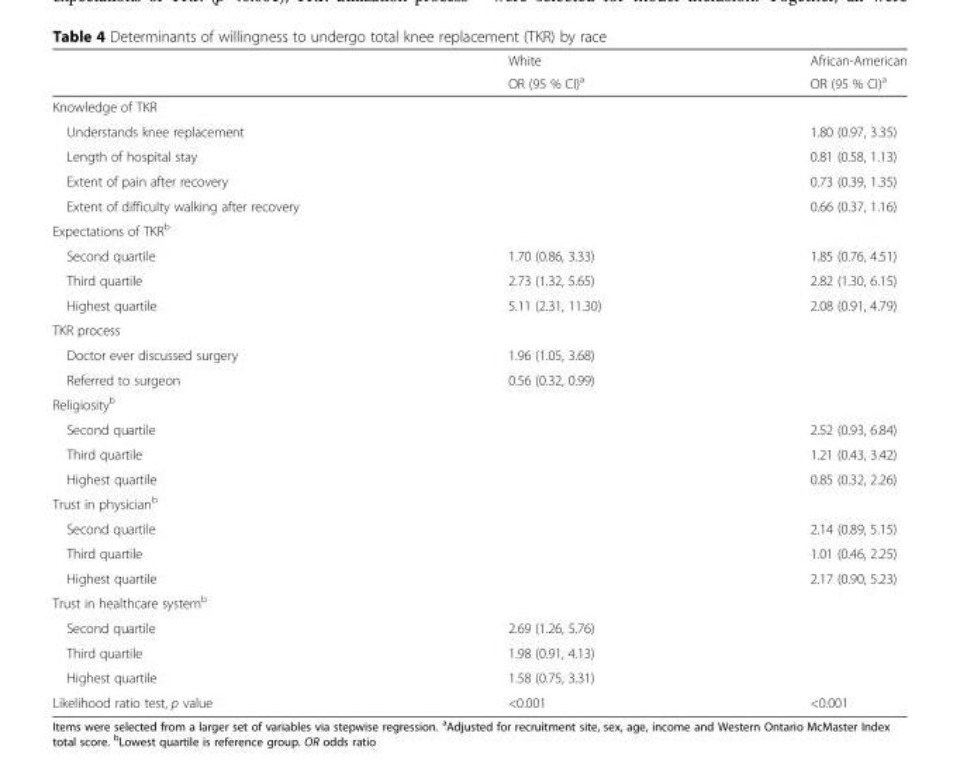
<table><thead><tr><td rowspan="2"></td><td rowspan="2">White OR (95 % CI)<sup>a</sup></td><td rowspan="2">African-American OR (95 % CI)<sup>a</sup></td></tr><tr></tr></thead><tbody><tr><td colspan="3">Knowledge of TKR</td></tr><tr><td>Understands knee replacement</td><td></td><td>1.80 (0.97, 3.35)</td></tr><tr><td>Length of hospital stay</td><td></td><td>0.81 (0.58, 1.13)</td></tr><tr><td>Extent of pain after recovery</td><td></td><td>0.73 (0.39, 1.35)</td></tr><tr><td>Extent of difficulty walking after recovery</td><td></td><td>0.66 (0.37, 1.16)</td></tr><tr><td colspan="3">Expectations of TKR<sup>b</sup></td></tr><tr><td>Second quartile</td><td>1.70 (0.86, 3.33)</td><td>1.85 (0.76, 4.51)</td></tr><tr><td>Third quartile</td><td>2.73 (1.32, 5.65)</td><td>2.82 (1.30, 6.15)</td></tr><tr><td>Highest quartile</td><td>5.11 (2.31, 11.30)</td><td>2.08 (0.91, 4.79)</td></tr><tr><td colspan="3">TKR process</td></tr><tr><td>Doctor ever discussed surgery</td><td>1.96 (1.05, 3.68)</td><td></td></tr><tr><td>Referred to surgeon</td><td>0.56 (0.32, 0.99)</td><td></td></tr><tr><td colspan="3">Religiosity<sup>b</sup></td></tr><tr><td>Second quartile</td><td></td><td>2.52 (0.93, 6.84)</td></tr><tr><td>Third quartile</td><td></td><td>1.21 (0.43, 3.42)</td></tr><tr><td>Highest quartile</td><td></td><td>0.85 (0.32, 2.26)</td></tr><tr><td colspan="3">Trust in physician<sup>b</sup></td></tr><tr><td>Second quartile</td><td></td><td>2.14 (0.89, 5.15)</td></tr><tr><td>Third quartile</td><td></td><td>1.01 (0.46, 2.25)</td></tr><tr><td>Highest quartile</td><td></td><td>2.17 (0.90, 5.23)</td></tr><tr><td colspan="3">Trust in healthcare system<sup>b</sup></td></tr><tr><td>Second quartile</td><td>2.69 (1.26, 5.76)</td><td></td></tr><tr><td>Third quartile</td><td>1.98 (0.91, 4.13)</td><td></td></tr><tr><td>Highest quartile</td><td>1.58 (0.75, 3.31)</td><td></td></tr><tr><td>Likelihood ratio test, p value</td><td>&lt;0.001</td><td>&lt;0.001</td></tr></tbody></table>